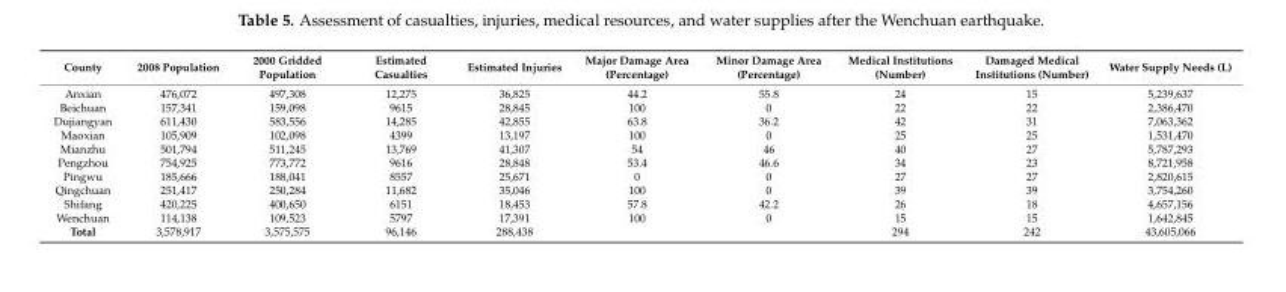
<table><thead><tr><td>County</td><td>2008 Population</td><td>2000 Gridded Population</td><td>Estimated Casualties</td><td>Estimated Injuries</td><td>Major Damage Area (Percentage)</td><td>Minor Damage Area (Percentage)</td><td>Medical Institutions (Number)</td><td>Damaged Medical Institutions (Number)</td><td>Water Supply Needs (L)</td></tr></thead><tbody><tr><td>Anxian</td><td>476,072</td><td>497,308</td><td>12,275</td><td>36,825</td><td>44.2</td><td>55.8</td><td>24</td><td>15</td><td>5,239,637</td></tr><tr><td>Beichuan</td><td>157,341</td><td>159,098</td><td>9615</td><td>28,845</td><td>100</td><td>0</td><td>22</td><td>22</td><td>2,386,470</td></tr><tr><td>Dujiangyan</td><td>611,430</td><td>583,556</td><td>14,285</td><td>42,855</td><td>63.8</td><td>36.2</td><td>42</td><td>31</td><td>7,063,362</td></tr><tr><td>Maoxian</td><td>105,909</td><td>102,098</td><td>4399</td><td>13,197</td><td>100</td><td>0</td><td>25</td><td>25</td><td>1,531,470</td></tr><tr><td>Mianzhu</td><td>501,794</td><td>511,245</td><td>13,769</td><td>41,307</td><td>54</td><td>46</td><td>40</td><td>27</td><td>5,787,293</td></tr><tr><td>Pengzhou</td><td>754,925</td><td>773,772</td><td>9616</td><td>28,848</td><td>53.4</td><td>46.6</td><td>34</td><td>23</td><td>8,721,958</td></tr><tr><td>Pingwu</td><td>185,666</td><td>188,041</td><td>8557</td><td>25,671</td><td>0</td><td>0</td><td>27</td><td>27</td><td>2,820,615</td></tr><tr><td>Qingchuan</td><td>251,417</td><td>250,284</td><td>11,682</td><td>35,046</td><td>100</td><td>0</td><td>39</td><td>39</td><td>3,754,260</td></tr><tr><td>Shifang</td><td>420,225</td><td>400,650</td><td>6151</td><td>18,453</td><td>57.8</td><td>42.2</td><td>26</td><td>18</td><td>4,657,156</td></tr><tr><td>Wenchuan</td><td>114,138</td><td>109,523</td><td>5797</td><td>17,391</td><td>100</td><td>0</td><td>15</td><td>15</td><td>1,642,845</td></tr><tr><td>Total</td><td>3,578,917</td><td>3,575,575</td><td>96,146</td><td>288,438</td><td></td><td></td><td>294</td><td>242</td><td>43,605,066</td></tr></tbody></table>